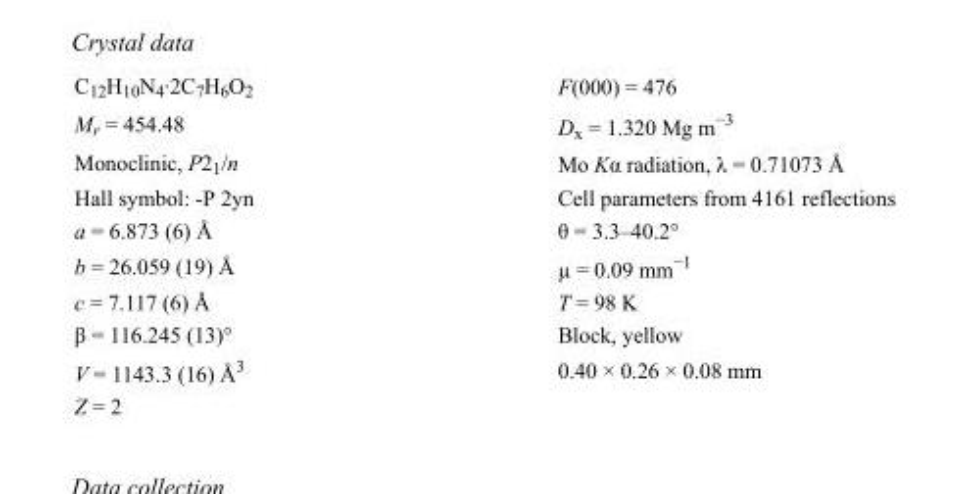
<table><tbody><tr><td>C<sub>12</sub>H<sub>10</sub>N<sub>4</sub>·2C<sub>7</sub>H<sub>6</sub>O<sub>2</sub></td><td>F(000) = 476</td></tr><tr><td>M<sub>r</sub> = 454.48</td><td>D<sub>x</sub> = 1.320 Mg m<sup>−3</sup></td></tr><tr><td>Monoclinic, P2<sub>1</sub>/n</td><td>Mo Kα radiation, λ = 0.71073 Å</td></tr><tr><td>Hall symbol: -P 2yn</td><td>Cell parameters from 4161 reflections</td></tr><tr><td>a = 6.873 (6) Å</td><td>θ = 3.3–40.2°</td></tr><tr><td>b = 26.059 (19) Å</td><td>µ = 0.09 mm<sup>−1</sup></td></tr><tr><td>c = 7.117 (6) Å</td><td>T = 98 K</td></tr><tr><td>β = 116.245 (13)°</td><td>Block, yellow</td></tr><tr><td>V = 1143.3 (16) Å<sup>3</sup></td><td>0.40 × 0.26 × 0.08 mm</td></tr><tr><td>Z = 2</td><td></td></tr></tbody></table>